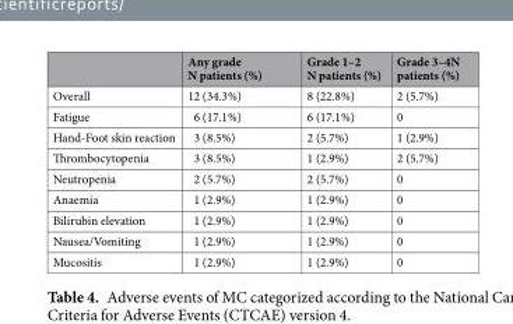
<table><thead><tr><td></td><td>Any grade N patients (%)</td><td>Grade 1–2 N patients (%)</td><td>Grade 3–4N patients (%)</td></tr></thead><tbody><tr><td>Overall</td><td>12 (34.3%)</td><td>8 (22.8%)</td><td>2 (5.7%)</td></tr><tr><td>Fatigue</td><td>6 (17.1%)</td><td>6 (17.1%)</td><td>0</td></tr><tr><td>Hand-Foot skin reaction</td><td>3 (8.5%)</td><td>2 (5.7%)</td><td>1 (2.9%)</td></tr><tr><td>Thrombocytopenia</td><td>3 (8.5%)</td><td>1 (2.9%)</td><td>2 (5.7%)</td></tr><tr><td>Neutropenia</td><td>2 (5.7%)</td><td>2 (5.7%)</td><td>0</td></tr><tr><td>Anaemia</td><td>1 (2.9%)</td><td>1 (2.9%)</td><td>0</td></tr><tr><td>Bilirubin elevation</td><td>1 (2.9%)</td><td>1 (2.9%)</td><td>0</td></tr><tr><td>Nausea/Vomiting</td><td>1 (2.9%)</td><td>1 (2.9%)</td><td>0</td></tr><tr><td>Mucositis</td><td>1 (2.9%)</td><td>1 (2.9%)</td><td>0</td></tr></tbody></table>